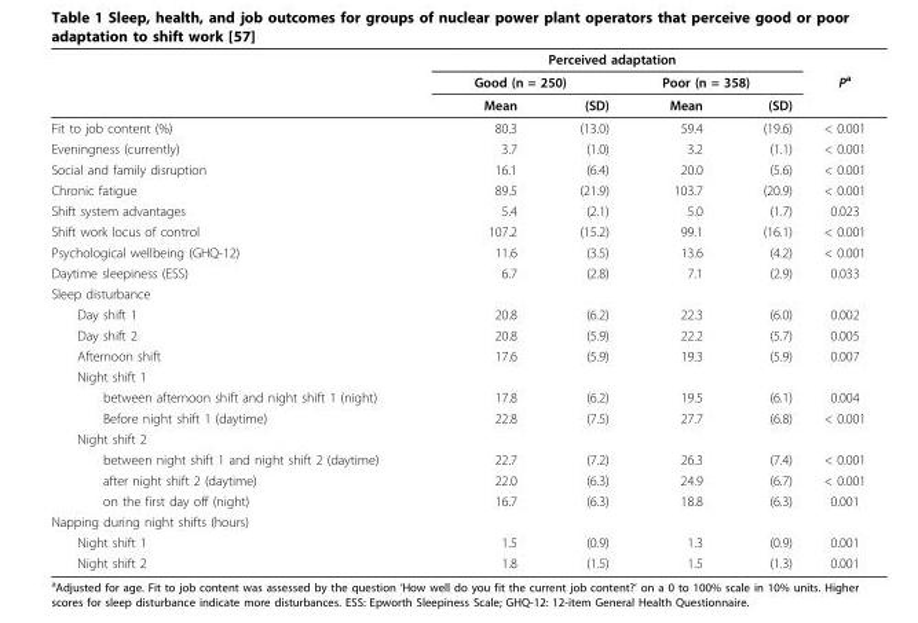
<table><thead><tr><td rowspan="3"></td><td colspan="4">Perceived adaptation</td><td rowspan="3">P<sup>a</sup></td></tr><tr><td colspan="2">Good (n = 250)</td><td colspan="2">Poor (n = 358)</td></tr><tr><td>Mean</td><td>(SD)</td><td>Mean</td><td>(SD)</td></tr></thead><tbody><tr><td>Fit to job content (%)</td><td>80.3</td><td>(13.0)</td><td>59.4</td><td>(19.6)</td><td>&lt; 0.001</td></tr><tr><td>Eveningness (currently)</td><td>3.7</td><td>(1.0)</td><td>3.2</td><td>(1.1)</td><td>&lt; 0.001</td></tr><tr><td>Social and family disruption</td><td>16.1</td><td>(6.4)</td><td>20.0</td><td>(5.6)</td><td>&lt; 0.001</td></tr><tr><td>Chronic fatigue</td><td>89.5</td><td>(21.9)</td><td>103.7</td><td>(20.9)</td><td>&lt; 0.001</td></tr><tr><td>Shift system advantages</td><td>5.4</td><td>(2.1)</td><td>5.0</td><td>(1.7)</td><td>0.023</td></tr><tr><td>Shift work locus of control</td><td>107.2</td><td>(15.2)</td><td>99.1</td><td>(16.1)</td><td>&lt; 0.001</td></tr><tr><td>Psychological wellbeing (GHQ-12)</td><td>11.6</td><td>(3.5)</td><td>13.6</td><td>(4.2)</td><td>&lt; 0.001</td></tr><tr><td>Daytime sleepiness (ESS)</td><td>6.7</td><td>(2.8)</td><td>7.1</td><td>(2.9)</td><td>0.033</td></tr><tr><td colspan="6">Sleep disturbance</td></tr><tr><td>Day shift 1</td><td>20.8</td><td>(6.2)</td><td>22.3</td><td>(6.0)</td><td>0.002</td></tr><tr><td>Day shift 2</td><td>20.8</td><td>(5.9)</td><td>22.2</td><td>(5.7)</td><td>0.005</td></tr><tr><td>Afternoon shift</td><td>17.6</td><td>(5.9)</td><td>19.3</td><td>(5.9)</td><td>0.007</td></tr><tr><td colspan="6">Night shift 1</td></tr><tr><td>between afternoon shift and night shift 1 (night)</td><td>17.8</td><td>(6.2)</td><td>19.5</td><td>(6.1)</td><td>0.004</td></tr><tr><td>Before night shift 1 (daytime)</td><td>22.8</td><td>(7.5)</td><td>27.7</td><td>(6.8)</td><td>&lt; 0.001</td></tr><tr><td colspan="6">Night shift 2</td></tr><tr><td>between night shift 1 and night shift 2 (daytime)</td><td>22.7</td><td>(7.2)</td><td>26.3</td><td>(7.4)</td><td>&lt; 0.001</td></tr><tr><td>after night shift 2 (daytime)</td><td>22.0</td><td>(6.3)</td><td>24.9</td><td>(6.7)</td><td>&lt; 0.001</td></tr><tr><td>on the first day off (night)</td><td>16.7</td><td>(6.3)</td><td>18.8</td><td>(6.3)</td><td>0.001</td></tr><tr><td colspan="6">Napping during night shifts (hours)</td></tr><tr><td>Night shift 1</td><td>1.5</td><td>(0.9)</td><td>1.3</td><td>(0.9)</td><td>0.001</td></tr><tr><td>Night shift 2</td><td>1.8</td><td>(1.5)</td><td>1.5</td><td>(1.3)</td><td>0.001</td></tr></tbody></table>